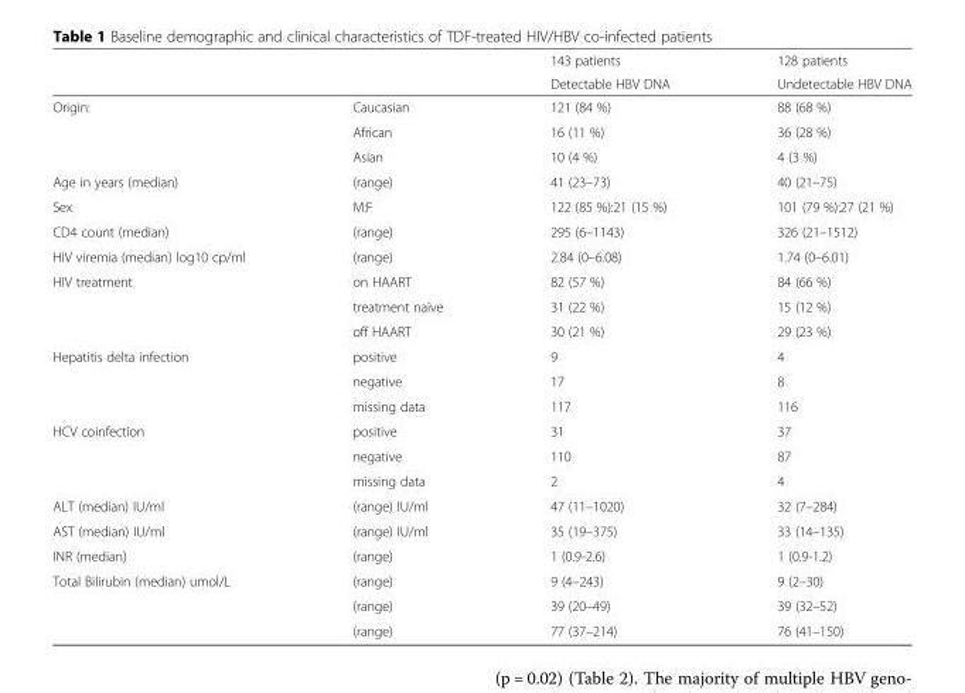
<table><thead><tr><td rowspan="2"></td><td rowspan="2"></td><td rowspan="2">143 patients Detectable HBV DNA</td><td rowspan="2">128 patients Undetectable HBV DNA</td></tr><tr></tr></thead><tbody><tr><td rowspan="3">Origin:</td><td>Caucasian</td><td>121 (84 %)</td><td>88 (68 %)</td></tr><tr><td>African</td><td>16 (11 %)</td><td>36 (28 %)</td></tr><tr><td>Asian</td><td>10 (4 %)</td><td>4 (3 %)</td></tr><tr><td>Age in years (median)</td><td>(range)</td><td>41 (23–73)</td><td>40 (21–75)</td></tr><tr><td>Sex</td><td>M:F</td><td>122 (85 %):21 (15 %)</td><td>101 (79 %):27 (21 %)</td></tr><tr><td>CD4 count (median)</td><td>(range)</td><td>295 (6–1143)</td><td>326 (21–1512)</td></tr><tr><td>HIV viremia (median) log10 cp/ml</td><td>(range)</td><td>2.84 (0–6.08)</td><td>1.74 (0–6.01)</td></tr><tr><td rowspan="3">HIV treatment</td><td>on HAART</td><td>82 (57 %)</td><td>84 (66 %)</td></tr><tr><td>treatment naïve</td><td>31 (22 %)</td><td>15 (12 %)</td></tr><tr><td>off HAART</td><td>30 (21 %)</td><td>29 (23 %)</td></tr><tr><td rowspan="3">Hepatitis delta infection</td><td>positive</td><td>9</td><td>4</td></tr><tr><td>negative</td><td>17</td><td>8</td></tr><tr><td>missing data</td><td>117</td><td>116</td></tr><tr><td rowspan="3">HCV coinfection</td><td>positive</td><td>31</td><td>37</td></tr><tr><td>negative</td><td>110</td><td>87</td></tr><tr><td>missing data</td><td>2</td><td>4</td></tr><tr><td>ALT (median) IU/ml</td><td>(range) IU/ml</td><td>47 (11–1020)</td><td>32 (7–284)</td></tr><tr><td>AST (median) IU/ml</td><td>(range) IU/ml</td><td>35 (19–375)</td><td>33 (14–135)</td></tr><tr><td>INR (median)</td><td>(range)</td><td>1 (0.9-2.6)</td><td>1 (0.9-1.2)</td></tr><tr><td rowspan="3">Total Bilirubin (median) umol/L</td><td>(range)</td><td>9 (4–243)</td><td>9 (2–30)</td></tr><tr><td>(range)</td><td>39 (20–49)</td><td>39 (32–52)</td></tr><tr><td>(range)</td><td>77 (37–214)</td><td>76 (41–150)</td></tr></tbody></table>